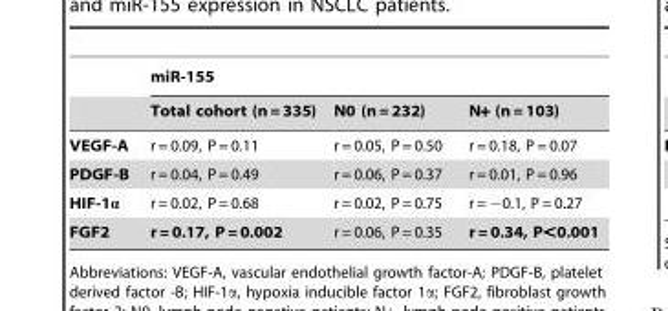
<table><thead><tr><td rowspan="2"></td><td colspan="3">miR-155</td></tr><tr><td>Total cohort (n = 335)</td><td>N0 (n = 232)</td><td>N+ (n = 103)</td></tr></thead><tbody><tr><td>VEGF-A</td><td>r = 0.09, P = 0.11</td><td>r = 0.05, P = 0.50</td><td>r = 0.18, P = 0.07</td></tr><tr><td>PDGF-B</td><td>r = 0.04, P = 0.49</td><td>r = 0.06, P = 0.37</td><td>r = 0.01, P = 0.96</td></tr><tr><td>HIF-1α</td><td>r = 0.02, P = 0.68</td><td>r = 0.02, P = 0.75</td><td>r = −0.1, P = 0.27</td></tr><tr><td>FGF2</td><td>r = 0.17, P = 0.002</td><td>r = 0.06, P = 0.35</td><td>r = 0.34, P&lt;0.001</td></tr></tbody></table>